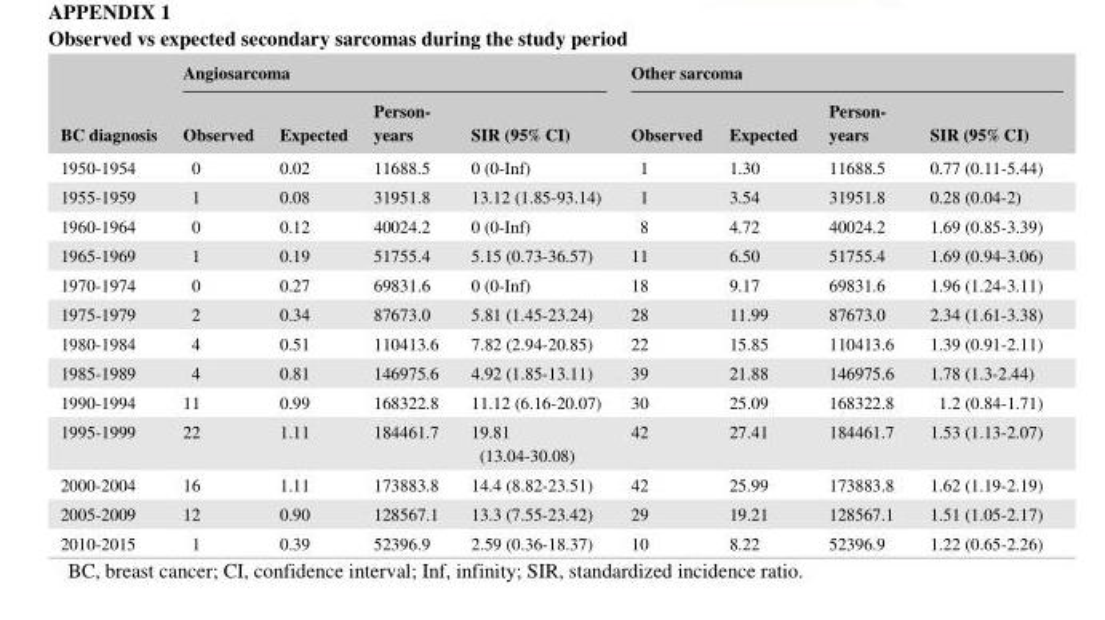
<table><thead><tr><td rowspan="2">BC diagnosis</td><td colspan="4">Angiosarcoma</td><td colspan="4">Other sarcoma</td></tr><tr><td>Observed</td><td>Expected</td><td>Person- years</td><td>SIR (95% CI)</td><td>Observed</td><td>Expected</td><td>Person- years</td><td>SIR (95% CI)</td></tr></thead><tbody><tr><td>1950- 1954</td><td>0</td><td>0.02</td><td>11688.5</td><td>0 (0- Inf)</td><td>1</td><td>1.30</td><td>11688.5</td><td>0.77 (0.11- 5.44)</td></tr><tr><td>1955- 1959</td><td>1</td><td>0.08</td><td>31951.8</td><td>13.12 (1.85- 93.14)</td><td>1</td><td>3.54</td><td>31951.8</td><td>0.28 (0.04- 2)</td></tr><tr><td>1960- 1964</td><td>0</td><td>0.12</td><td>40024.2</td><td>0 (0- Inf)</td><td>8</td><td>4.72</td><td>40024.2</td><td>1.69 (0.85- 3.39)</td></tr><tr><td>1965- 1969</td><td>1</td><td>0.19</td><td>51755.4</td><td>5.15 (0.73- 36.57)</td><td>11</td><td>6.50</td><td>51755.4</td><td>1.69 (0.94- 3.06)</td></tr><tr><td>1970- 1974</td><td>0</td><td>0.27</td><td>69831.6</td><td>0 (0- Inf)</td><td>18</td><td>9.17</td><td>69831.6</td><td>1.96 (1.24- 3.11)</td></tr><tr><td>1975- 1979</td><td>2</td><td>0.34</td><td>87673.0</td><td>5.81 (1.45- 23.24)</td><td>28</td><td>11.99</td><td>87673.0</td><td>2.34 (1.61- 3.38)</td></tr><tr><td>1980- 1984</td><td>4</td><td>0.51</td><td>110413.6</td><td>7.82 (2.94- 20.85)</td><td>22</td><td>15.85</td><td>110413.6</td><td>1.39 (0.91- 2.11)</td></tr><tr><td>1985- 1989</td><td>4</td><td>0.81</td><td>146975.6</td><td>4.92 (1.85- 13.11)</td><td>39</td><td>21.88</td><td>146975.6</td><td>1.78 (1.3- 2.44)</td></tr><tr><td>1990- 1994</td><td>11</td><td>0.99</td><td>168322.8</td><td>11.12 (6.16- 20.07)</td><td>30</td><td>25.09</td><td>168322.8</td><td>1.2 (0.84- 1.71)</td></tr><tr><td>1995- 1999</td><td>22</td><td>1.11</td><td>184461.7</td><td>19.81 (13.04- 30.08)</td><td>42</td><td>27.41</td><td>184461.7</td><td>1.53 (1.13- 2.07)</td></tr><tr><td>2000- 2004</td><td>16</td><td>1.11</td><td>173883.8</td><td>14.4 (8.82- 23.51)</td><td>42</td><td>25.99</td><td>173883.8</td><td>1.62 (1.19- 2.19)</td></tr><tr><td>2005- 2009</td><td>12</td><td>0.90</td><td>128567.1</td><td>13.3 (7.55- 23.42)</td><td>29</td><td>19.21</td><td>128567.1</td><td>1.51 (1.05- 2.17)</td></tr><tr><td>2010- 2015</td><td>1</td><td>0.39</td><td>52396.9</td><td>2.59 (0.36- 18.37)</td><td>10</td><td>8.22</td><td>52396.9</td><td>1.22 (0.65- 2.26)</td></tr></tbody></table>